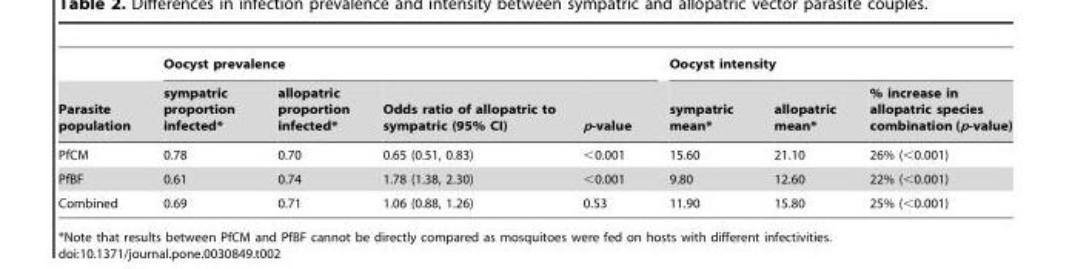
<table><thead><tr><td rowspan="2">Parasite population</td><td colspan="4">Oocyst prevalence</td><td colspan="3">Oocyst intensity</td></tr><tr><td>sympatric proportion infected*</td><td>allopatric proportion infected*</td><td>Odds ratio of allopatric to sympatric (95% CI)</td><td>p-value</td><td>sympatric mean*</td><td>allopatric mean*</td><td>% increase in allopatric species combination (p-value)</td></tr></thead><tbody><tr><td>PfCM</td><td>0.78</td><td>0.70</td><td>0.65 (0.51, 0.83)</td><td>&lt;0.001</td><td>15.60</td><td>21.10</td><td>26% (&lt;0.001)</td></tr><tr><td>PfBF</td><td>0.61</td><td>0.74</td><td>1.78 (1.38, 2.30)</td><td>&lt;0.001</td><td>9.80</td><td>12.60</td><td>22% (&lt;0.001)</td></tr><tr><td>Combined</td><td>0.69</td><td>0.71</td><td>1.06 (0.88, 1.26)</td><td>0.53</td><td>11.90</td><td>15.80</td><td>25% (&lt;0.001)</td></tr></tbody></table>